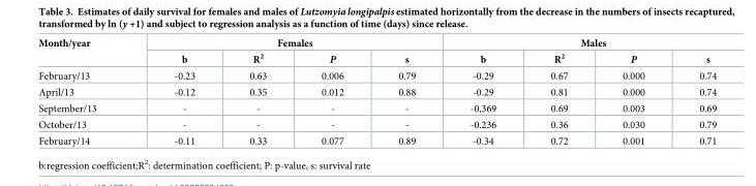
<table><thead><tr><td rowspan="2">Month/year</td><td colspan="4">Females</td><td colspan="4">Males</td></tr><tr><td>b</td><td>R<sup>2</sup></td><td>P</td><td>s</td><td>b</td><td>R<sup>2</sup></td><td>P</td><td>s</td></tr></thead><tbody><tr><td>February/13</td><td>-0.23</td><td>0.63</td><td>0.006</td><td>0.79</td><td>-0.29</td><td>0.67</td><td>0.000</td><td>0.74</td></tr><tr><td>April/13</td><td>-0.12</td><td>0.35</td><td>0.012</td><td>0.88</td><td>-0.29</td><td>0.81</td><td>0.000</td><td>0.74</td></tr><tr><td>September/13</td><td>-</td><td>-</td><td>-</td><td>-</td><td>-0,369</td><td>0.69</td><td>0.003</td><td>0.69</td></tr><tr><td>October/13</td><td>-</td><td>-</td><td>-</td><td>-</td><td>-0.236</td><td>0.36</td><td>0.030</td><td>0.79</td></tr><tr><td>February/14</td><td>-0.11</td><td>0.33</td><td>0.077</td><td>0.89</td><td>-0.34</td><td>0.72</td><td>0.001</td><td>0.71</td></tr></tbody></table>